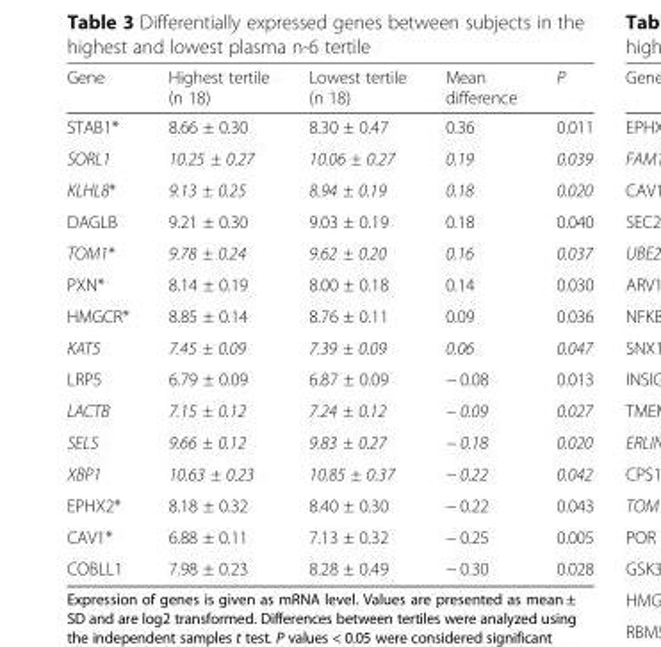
<table><thead><tr><td>Gene</td><td>Highest tertile (n 18)</td><td>Lowest tertile (n 18)</td><td>Mean difference</td><td>P</td></tr></thead><tbody><tr><td>STAB1*</td><td>8.66 ± 0.30</td><td>8.30 ± 0.47</td><td>0.36</td><td>0.011</td></tr><tr><td>SORL1</td><td>10.25 ± 0.27</td><td>10.06 ± 0.27</td><td>0.19</td><td>0.039</td></tr><tr><td>KLHL8*</td><td>9.13 ± 0.25</td><td>8.94 ± 0.19</td><td>0.18</td><td>0.020</td></tr><tr><td>DAGLB</td><td>9.21 ± 0.30</td><td>9.03 ± 0.19</td><td>0.18</td><td>0.040</td></tr><tr><td>TOM1*</td><td>9.78 ± 0.24</td><td>9.62 ± 0.20</td><td>0.16</td><td>0.037</td></tr><tr><td>PXN*</td><td>8.14 ± 0.19</td><td>8.00 ± 0.18</td><td>0.14</td><td>0.030</td></tr><tr><td>HMGCR*</td><td>8.85 ± 0.14</td><td>8.76 ± 0.11</td><td>0.09</td><td>0.036</td></tr><tr><td>KAT5</td><td>7.45 ± 0.09</td><td>7.39 ± 0.09</td><td>0.06</td><td>0.047</td></tr><tr><td>LRP5</td><td>6.79 ± 0.09</td><td>6.87 ± 0.09</td><td>− 0.08</td><td>0.013</td></tr><tr><td>LACTB</td><td>7.15 ± 0.12</td><td>7.24 ± 0.12</td><td>− 0.09</td><td>0.027</td></tr><tr><td>SELS</td><td>9.66 ± 0.12</td><td>9.83 ± 0.27</td><td>− 0.18</td><td>0.020</td></tr><tr><td>XBP1</td><td>10.63 ± 0.23</td><td>10.85 ± 0.37</td><td>− 0.22</td><td>0.042</td></tr><tr><td>EPHX2*</td><td>8.18 ± 0.32</td><td>8.40 ± 0.30</td><td>− 0.22</td><td>0.043</td></tr><tr><td>CAV1*</td><td>6.88 ± 0.11</td><td>7.13 ± 0.32</td><td>− 0.25</td><td>0.005</td></tr><tr><td>COBLL1</td><td>7.98 ± 0.23</td><td>8.28 ± 0.49</td><td>− 0.30</td><td>0.028</td></tr></tbody></table>